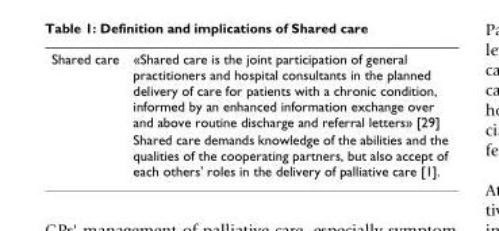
<table><tbody><tr><td rowspan="2">Shared care</td><td>«Shared care is the joint participation of general practitioners and hospital consultants in the planned delivery of care for patients with a chronic condition, informed by an enhanced information exchange over and above routine discharge and referral letters» [29]</td></tr><tr><td>Shared care demands knowledge of the abilities and the qualities of the cooperating partners, but also accept of each others&#x27; roles in the delivery of palliative care [1].</td></tr></tbody></table>